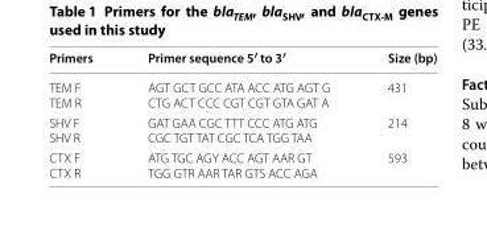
<table><thead><tr><td>Primers</td><td>Primer sequence 5′ to 3′</td><td>Size (bp)</td></tr></thead><tbody><tr><td>TEM F TEM R</td><td>AGT GCT GCC ATA ACC ATG AGT G CTG ACT CCC CGT CGT GTA GAT A</td><td>431</td></tr><tr><td>SHV F SHV R</td><td>GAT GAA CGC TTT CCC ATG ATG CGC TGT TAT CGC TCA TGG TAA</td><td>214</td></tr><tr><td>CTX F CTX R</td><td>ATG TGC AGY ACC AGT AAR GT TGG GTR AAR TAR GTS ACC AGA</td><td>593</td></tr></tbody></table>